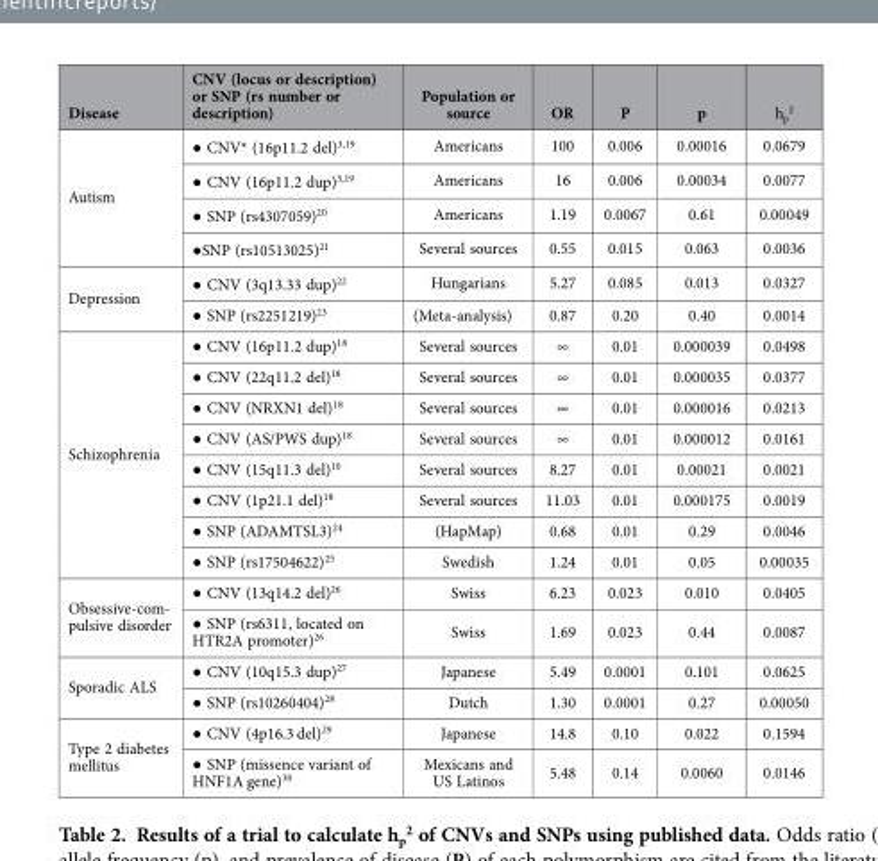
<table><thead><tr><td>Disease</td><td>CNV (locus or description) or SNP (rs number or description)</td><td>Population or source</td><td>OR</td><td>P</td><td>p</td><td>h<sub>p</sub> <sup>2</sup></td></tr></thead><tbody><tr><td rowspan="4">Autism</td><td>● CNV* (16p11.2 del)3,19</td><td>Americans</td><td>100</td><td>0.006</td><td>0.00016</td><td>0.0679</td></tr><tr><td>● CNV (16p11.2 dup)3,19</td><td>Americans</td><td>16</td><td>0.006</td><td>0.00034</td><td>0.0077</td></tr><tr><td>● SNP (rs4307059)20</td><td>Americans</td><td>1.19</td><td>0.0067</td><td>0.61</td><td>0.00049</td></tr><tr><td>●SNP (rs10513025)21</td><td>Several sources</td><td>0.55</td><td>0.015</td><td>0.063</td><td>0.0036</td></tr><tr><td rowspan="2">Depression</td><td>● CNV (3q13.33 dup)22</td><td>Hungarians</td><td>5.27</td><td>0.085</td><td>0.013</td><td>0.0327</td></tr><tr><td>● SNP (rs2251219)23</td><td>(Meta-analysis)</td><td>0.87</td><td>0.20</td><td>0.40</td><td>0.0014</td></tr><tr><td rowspan="8">Schizophrenia</td><td>● CNV (16p11.2 dup)18</td><td>Several sources</td><td>∞</td><td>0.01</td><td>0.000039</td><td>0.0498</td></tr><tr><td>● CNV (22q11.2 del)18</td><td>Several sources</td><td>∞</td><td>0.01</td><td>0.000035</td><td>0.0377</td></tr><tr><td>● CNV (NRXN1 del)18</td><td>Several sources</td><td>∞</td><td>0.01</td><td>0.000016</td><td>0.0213</td></tr><tr><td>● CNV (AS/PWS dup)18</td><td>Several sources</td><td>∞</td><td>0.01</td><td>0.000012</td><td>0.0161</td></tr><tr><td>● CNV (15q11.3 del)10</td><td>Several sources</td><td>8.27</td><td>0.01</td><td>0.00021</td><td>0.0021</td></tr><tr><td>● CNV (1p21.1 del)18</td><td>Several sources</td><td>11.03</td><td>0.01</td><td>0.000175</td><td>0.0019</td></tr><tr><td>● SNP (ADAMTSL3)24</td><td>(HapMap)</td><td>0.68</td><td>0.01</td><td>0.29</td><td>0.0046</td></tr><tr><td>● SNP (rs17504622)25</td><td>Swedish</td><td>1.24</td><td>0.01</td><td>0.05</td><td>0.00035</td></tr><tr><td rowspan="2">Obsessive-com- pulsive disorder</td><td>● CNV (13q14.2 del)26</td><td>Swiss</td><td>6.23</td><td>0.023</td><td>0.010</td><td>0.0405</td></tr><tr><td>● SNP (rs6311, located on HTR2A promoter)26</td><td>Swiss</td><td>1.69</td><td>0.023</td><td>0.44</td><td>0.0087</td></tr><tr><td rowspan="2">Sporadic ALS</td><td>● CNV (10q15.3 dup)27</td><td>Japanese</td><td>5.49</td><td>0.0001</td><td>0.101</td><td>0.0625</td></tr><tr><td>● SNP (rs10260404)28</td><td>Dutch</td><td>1.30</td><td>0.0001</td><td>0.27</td><td>0.00050</td></tr><tr><td rowspan="2">Type 2 diabetes mellitus</td><td>● CNV (4p16.3 del)29</td><td>Japanese</td><td>14.8</td><td>0.10</td><td>0.022</td><td>0.1594</td></tr><tr><td>● SNP (missence variant of HNF1A gene)30</td><td>Mexicans and US Latinos</td><td>5.48</td><td>0.14</td><td>0.0060</td><td>0.0146</td></tr></tbody></table>